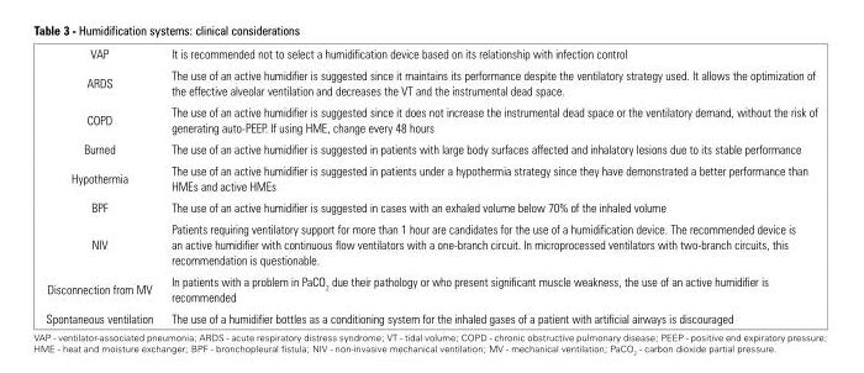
<table><tbody><tr><td>VAP</td><td>It is recommended not to select a humidification device based on its relationship with infection control</td></tr><tr><td>ARDS</td><td>The use of an active humidifier is suggested since it maintains its performance despite the ventilatory strategy used. It allows the optimization of the effective alveolar ventilation and decreases the VT and the instrumental dead space.</td></tr><tr><td>COPD</td><td>The use of an active humidifier is suggested since it does not increase the instrumental dead space or the ventilatory demand, without the risk of generating auto-PEEP. If using HME, change every 48 hours</td></tr><tr><td>Burned</td><td>The use of an active humidifier is suggested in patients with large body surfaces affected and inhalatory lesions due to its stable performance</td></tr><tr><td>Hypothermia</td><td>The use of an active humidifier is suggested in patients under a hypothermia strategy since they have demonstrated a better performance than HMEs and active HMEs</td></tr><tr><td>BPF</td><td>The use of an active humidifier is suggested in cases with an exhaled volume below 70% of the inhaled volume</td></tr><tr><td>NIV</td><td>Patients requiring ventilatory support for more than 1 hour are candidates for the use of a humidification device. The recommended device is an active humidifier with continuous flow ventilators with a one-branch circuit. In microprocessed ventilators with two-branch circuits, this recommendation is questionable.</td></tr><tr><td>Disconnection from MV</td><td>In patients with a problem in PaCO<sub>2</sub> due their pathology or who present significant muscle weakness, the use of an active humidifier is recommended</td></tr><tr><td>Spontaneous ventilation</td><td>The use of a humidifier bottles as a conditioning system for the inhaled gases of a patient with artificial airways is discouraged</td></tr></tbody></table>